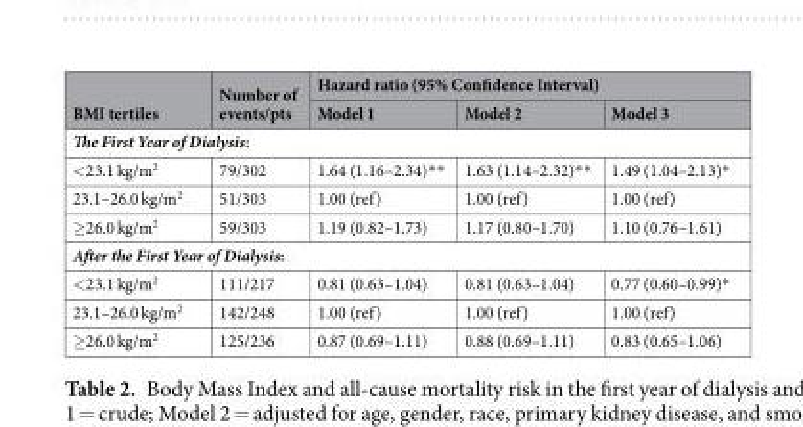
<table><thead><tr><td rowspan="2">BMI tertiles</td><td rowspan="2">Number of events/pts</td><td colspan="3">Hazard ratio (95% Confidence Interval)</td></tr><tr><td>Model 1</td><td>Model 2</td><td>Model 3</td></tr></thead><tbody><tr><td colspan="5">The First Year of Dialysis:</td></tr><tr><td>&lt;23.1 kg/m<sup>2</sup></td><td>79/302</td><td>1.64 (1.16–2.34)**</td><td>1.63 (1.14–2.32)**</td><td>1.49 (1.04–2.13)*</td></tr><tr><td>23.1–26.0 kg/m<sup>2</sup></td><td>51/303</td><td>1.00 (ref)</td><td>1.00 (ref)</td><td>1.00 (ref)</td></tr><tr><td>≥26.0 kg/m<sup>2</sup></td><td>59/303</td><td>1.19 (0.82–1.73)</td><td>1.17 (0.80–1.70)</td><td>1.10 (0.76–1.61)</td></tr><tr><td colspan="5">After the First Year of Dialysis:</td></tr><tr><td>&lt;23.1 kg/m<sup>2</sup></td><td>111/217</td><td>0.81 (0.63–1.04)</td><td>0.81 (0.63–1.04)</td><td>0.77 (0.60–0.99)*</td></tr><tr><td>23.1–26.0 kg/m<sup>2</sup></td><td>142/248</td><td>1.00 (ref)</td><td>1.00 (ref)</td><td>1.00 (ref)</td></tr><tr><td>≥26.0 kg/m<sup>2</sup></td><td>125/236</td><td>0.87 (0.69–1.11)</td><td>0.88 (0.69–1.11)</td><td>0.83 (0.65–1.06)</td></tr></tbody></table>